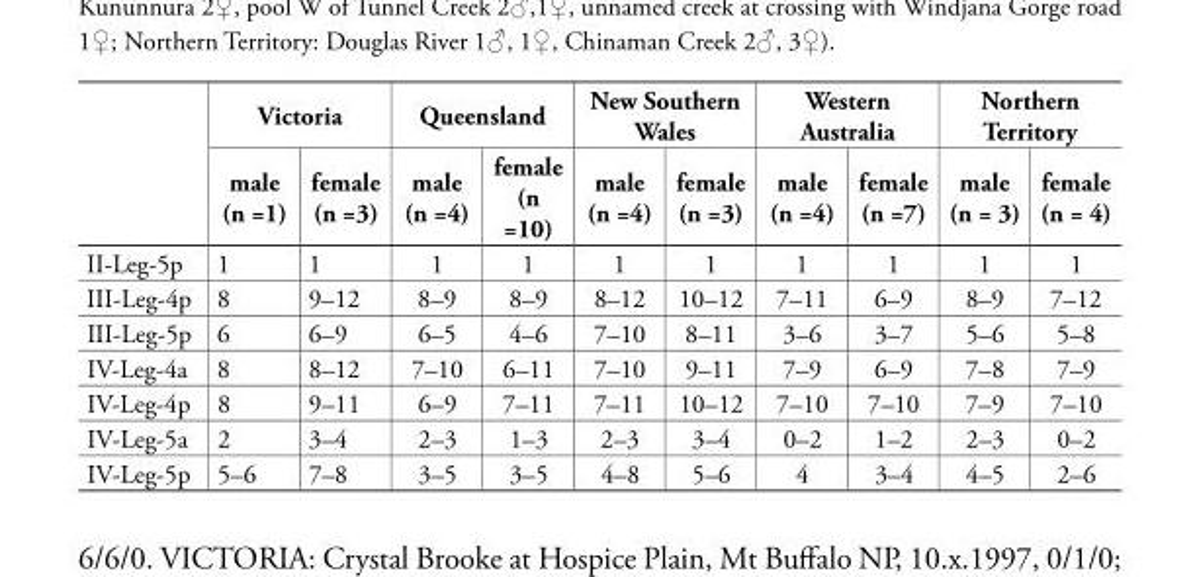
<table><thead><tr><td rowspan="2"></td><td colspan="2">Victoria</td><td colspan="2">Queensland</td><td colspan="2">New Southern Wales</td><td colspan="2">Western Australia</td><td colspan="2">Northern Territory</td></tr><tr><td>male (n =1)</td><td>female (n =3)</td><td>male (n =4)</td><td>female (n =10)</td><td>male (n =4)</td><td>female (n =3)</td><td>male (n =4)</td><td>female (n =7)</td><td>male (n = 3)</td><td>female (n = 4)</td></tr></thead><tbody><tr><td>II-Leg-5p</td><td>1</td><td>1</td><td>1</td><td>1</td><td>1</td><td>1</td><td>1</td><td>1</td><td>1</td><td>1</td></tr><tr><td>III-Leg-4p</td><td>8</td><td>9–12</td><td>8–9</td><td>8–9</td><td>8–12</td><td>10–12</td><td>7–11</td><td>6–9</td><td>8–9</td><td>7–12</td></tr><tr><td>III-Leg-5p</td><td>6</td><td>6–9</td><td>6–5</td><td>4–6</td><td>7–10</td><td>8–11</td><td>3–6</td><td>3–7</td><td>5–6</td><td>5–8</td></tr><tr><td>IV-Leg-4a</td><td>8</td><td>8–12</td><td>7–10</td><td>6–11</td><td>7–10</td><td>9–11</td><td>7–9</td><td>6–9</td><td>7–8</td><td>7–9</td></tr><tr><td>IV-Leg-4p</td><td>8</td><td>9–11</td><td>6–9</td><td>7–11</td><td>7–11</td><td>10–12</td><td>7–10</td><td>7–10</td><td>7–9</td><td>7–10</td></tr><tr><td>IV-Leg-5a</td><td>2</td><td>3–4</td><td>2–3</td><td>1–3</td><td>2–3</td><td>3–4</td><td>0–2</td><td>1–2</td><td>2–3</td><td>0–2</td></tr><tr><td>IV-Leg-5p</td><td>5–6</td><td>7–8</td><td>3–5</td><td>3–5</td><td>4–8</td><td>5–6</td><td>4</td><td>3–4</td><td>4–5</td><td>2–6</td></tr></tbody></table>